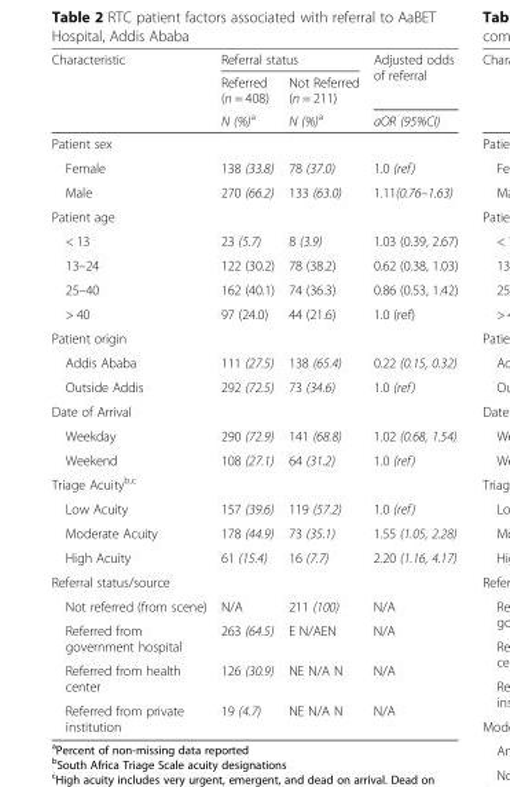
<table><thead><tr><td rowspan="3">Characteristic</td><td colspan="2">Referral status</td><td rowspan="3">Adjusted odds of referral aOR (95%CI)</td></tr><tr><td rowspan="2">Referred (n = 408) N (%)<sup>a</sup></td><td rowspan="2">Not Referred (n = 211) N (%)<sup>a</sup></td></tr><tr></tr></thead><tbody><tr><td colspan="4">Patient sex</td></tr><tr><td>Female</td><td>138 (33.8)</td><td>78 (37.0)</td><td>1.0 (ref)</td></tr><tr><td>Male</td><td>270 (66.2)</td><td>133 (63.0)</td><td>1.11(0.76–1.63)</td></tr><tr><td colspan="4">Patient age</td></tr><tr><td>&lt; 13</td><td>23 (5.7)</td><td>8 (3.9)</td><td>1.03 (0.39, 2.67)</td></tr><tr><td>13–24</td><td>122 (30.2)</td><td>78 (38.2)</td><td>0.62 (0.38, 1.03)</td></tr><tr><td>25–40</td><td>162 (40.1)</td><td>74 (36.3)</td><td>0.86 (0.53, 1.42)</td></tr><tr><td>&gt; 40</td><td>97 (24.0)</td><td>44 (21.6)</td><td>1.0 (ref)</td></tr><tr><td colspan="4">Patient origin</td></tr><tr><td>Addis Ababa</td><td>111 (27.5)</td><td>138 (65.4)</td><td>0.22 (0.15, 0.32)</td></tr><tr><td>Outside Addis</td><td>292 (72.5)</td><td>73 (34.6)</td><td>1.0 (ref)</td></tr><tr><td colspan="4">Date of Arrival</td></tr><tr><td>Weekday</td><td>290 (72.9)</td><td>141 (68.8)</td><td>1.02 (0.68, 1.54)</td></tr><tr><td>Weekend</td><td>108 (27.1)</td><td>64 (31.2)</td><td>1.0 (ref)</td></tr><tr><td colspan="4">Triage Acuity<sup>b,c</sup></td></tr><tr><td>Low Acuity</td><td>157 (39.6)</td><td>119 (57.2)</td><td>1.0 (ref)</td></tr><tr><td>Moderate Acuity</td><td>178 (44.9)</td><td>73 (35.1)</td><td>1.55 (1.05, 2.28)</td></tr><tr><td>High Acuity</td><td>61 (15.4)</td><td>16 (7.7)</td><td>2.20 (1.16, 4.17)</td></tr><tr><td colspan="4">Referral status/source</td></tr><tr><td>Not referred (from scene)</td><td>N/A</td><td>211 (100)</td><td>N/A</td></tr><tr><td>Referred from government hospital</td><td>263 (64.5)</td><td>E N/AEN</td><td>N/A</td></tr><tr><td>Referred from health center</td><td>126 (30.9)</td><td>NE N/A N</td><td>N/A</td></tr><tr><td>Referred from private institution</td><td>19 (4.7)</td><td>NE N/A N</td><td>N/A</td></tr></tbody></table>